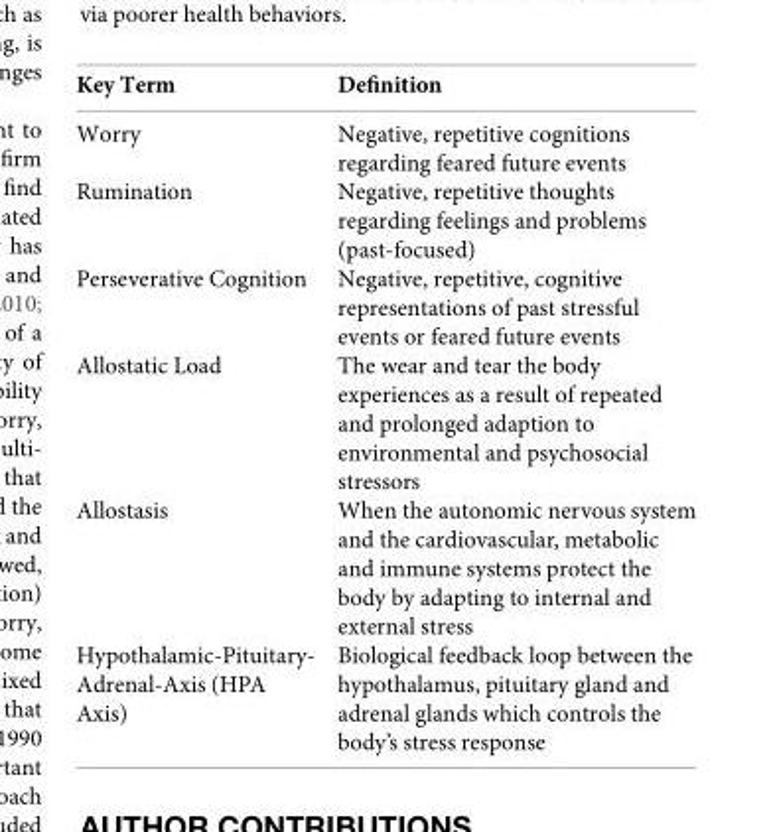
<table><thead><tr><td>Key Term</td><td>Definition</td></tr></thead><tbody><tr><td>Worry</td><td>Negative, repetitive cognitions regarding feared future events</td></tr><tr><td>Rumination</td><td>Negative, repetitive thoughts regarding feelings and problems (past-focused)</td></tr><tr><td>Perseverative Cognition</td><td>Negative, repetitive, cognitive representations of past stressful events or feared future events</td></tr><tr><td>Allostatic Load</td><td>The wear and tear the body experiences as a result of repeated and prolonged adaption to environmental and psychosocial stressors</td></tr><tr><td>Allostasis</td><td>When the autonomic nervous system and the cardiovascular, metabolic and immune systems protect the body by adapting to internal and external stress</td></tr><tr><td>Hypothalamic-Pituitary- Adrenal-Axis (HPA Axis)</td><td>Biological feedback loop between the hypothalamus, pituitary gland and adrenal glands which controls the body’s stress response</td></tr></tbody></table>